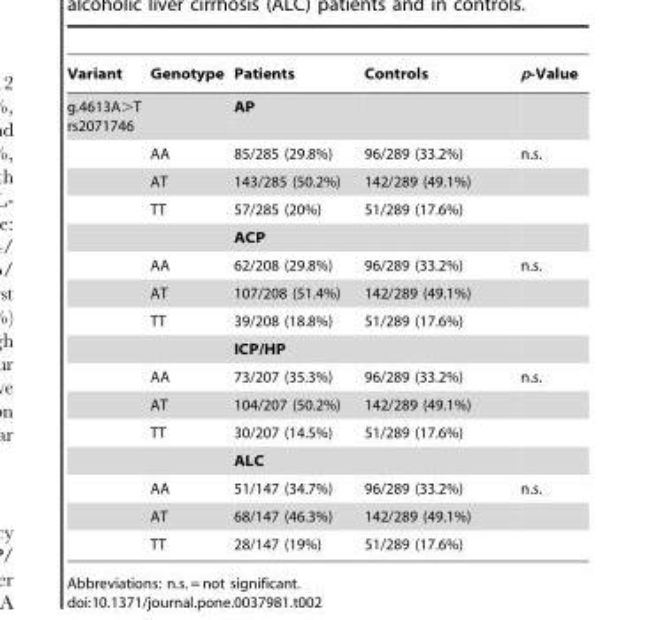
<table><thead><tr><td>Variant</td><td>Genotype</td><td>Patients</td><td>Controls</td><td>p-Value</td></tr></thead><tbody><tr><td rowspan="16">g.4613A&gt;T rs2071746</td><td></td><td>AP</td><td></td><td></td></tr><tr><td>AA</td><td>85/285 (29.8%)</td><td>96/289 (33.2%)</td><td>n.s.</td></tr><tr><td>AT</td><td>143/285 (50.2%)</td><td>142/289 (49.1%)</td><td></td></tr><tr><td>TT</td><td>57/285 (20%)</td><td>51/289 (17.6%)</td><td></td></tr><tr><td></td><td>ACP</td><td></td><td></td></tr><tr><td>AA</td><td>62/208 (29.8%)</td><td>96/289 (33.2%)</td><td>n.s.</td></tr><tr><td>AT</td><td>107/208 (51.4%)</td><td>142/289 (49.1%)</td><td></td></tr><tr><td>TT</td><td>39/208 (18.8%)</td><td>51/289 (17.6%)</td><td></td></tr><tr><td></td><td>ICP/HP</td><td></td><td></td></tr><tr><td>AA</td><td>73/207 (35.3%)</td><td>96/289 (33.2%)</td><td>n.s.</td></tr><tr><td>AT</td><td>104/207 (50.2%)</td><td>142/289 (49.1%)</td><td></td></tr><tr><td>TT</td><td>30/207 (14.5%)</td><td>51/289 (17.6%)</td><td></td></tr><tr><td></td><td>ALC</td><td></td><td></td></tr><tr><td>AA</td><td>51/147 (34.7%)</td><td>96/289 (33.2%)</td><td>n.s.</td></tr><tr><td>AT</td><td>68/147 (46.3%)</td><td>142/289 (49.1%)</td><td></td></tr><tr><td>TT</td><td>28/147 (19%)</td><td>51/289 (17.6%)</td><td></td></tr></tbody></table>